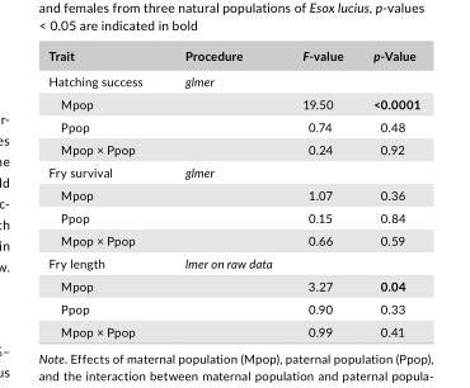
<table><thead><tr><td>Trait</td><td>Procedure</td><td>F- value</td><td>p- Value</td></tr></thead><tbody><tr><td>Hatching success</td><td>glmer</td><td></td><td></td></tr><tr><td>Mpop</td><td></td><td>19.50</td><td>&lt;0.0001</td></tr><tr><td>Ppop</td><td></td><td>0.74</td><td>0.48</td></tr><tr><td>Mpop × Ppop</td><td></td><td>0.24</td><td>0.92</td></tr><tr><td>Fry survival</td><td>glmer</td><td></td><td></td></tr><tr><td>Mpop</td><td></td><td>1.07</td><td>0.36</td></tr><tr><td>Ppop</td><td></td><td>0.15</td><td>0.84</td></tr><tr><td>Mpop × Ppop</td><td></td><td>0.66</td><td>0.59</td></tr><tr><td>Fry length</td><td>lmer on raw data</td><td></td><td></td></tr><tr><td>Mpop</td><td></td><td>3.27</td><td>0.04</td></tr><tr><td>Ppop</td><td></td><td>0.90</td><td>0.33</td></tr><tr><td>Mpop × Ppop</td><td></td><td>0.99</td><td>0.41</td></tr></tbody></table>